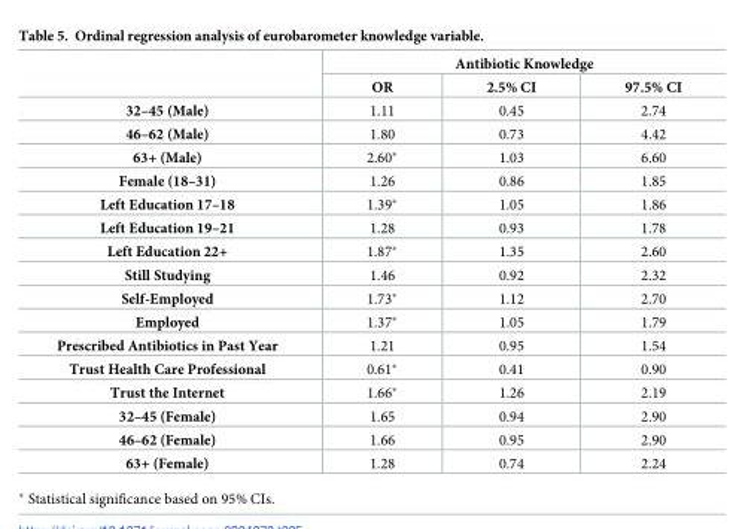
<table><thead><tr><td rowspan="2"></td><td colspan="3">Antibiotic Knowledge</td></tr><tr><td>OR</td><td>2.5% CI</td><td>97.5% CI</td></tr></thead><tbody><tr><td>32–45 (Male)</td><td>1.11</td><td>0.45</td><td>2.74</td></tr><tr><td>46–62 (Male)</td><td>1.80</td><td>0.73</td><td>4.42</td></tr><tr><td>63+ (Male)</td><td>2.60*</td><td>1.03</td><td>6.60</td></tr><tr><td>Female (18–31)</td><td>1.26</td><td>0.86</td><td>1.85</td></tr><tr><td>Left Education 17–18</td><td>1.39*</td><td>1.05</td><td>1.86</td></tr><tr><td>Left Education 19–21</td><td>1.28</td><td>0.93</td><td>1.78</td></tr><tr><td>Left Education 22+</td><td>1.87*</td><td>1.35</td><td>2.60</td></tr><tr><td>Still Studying</td><td>1.46</td><td>0.92</td><td>2.32</td></tr><tr><td>Self-Employed</td><td>1.73*</td><td>1.12</td><td>2.70</td></tr><tr><td>Employed</td><td>1.37*</td><td>1.05</td><td>1.79</td></tr><tr><td>Prescribed Antibiotics in Past Year</td><td>1.21</td><td>0.95</td><td>1.54</td></tr><tr><td>Trust Health Care Professional</td><td>0.61*</td><td>0.41</td><td>0.90</td></tr><tr><td>Trust the Internet</td><td>1.66*</td><td>1.26</td><td>2.19</td></tr><tr><td>32–45 (Female)</td><td>1.65</td><td>0.94</td><td>2.90</td></tr><tr><td>46–62 (Female)</td><td>1.66</td><td>0.95</td><td>2.90</td></tr><tr><td>63+ (Female)</td><td>1.28</td><td>0.74</td><td>2.24</td></tr></tbody></table>